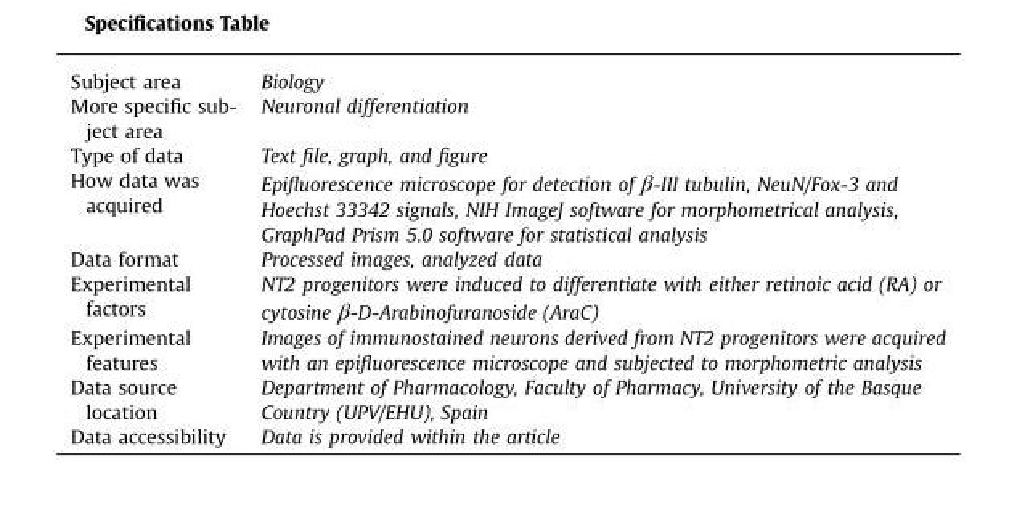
<table><tbody><tr><td>Subject area</td><td>Biology</td></tr><tr><td>More specific sub- ject area</td><td>Neuronal differentiation</td></tr><tr><td>Type of data</td><td>Text file, graph, and figure</td></tr><tr><td>How data was acquired</td><td>Epifluorescence microscope for detection of β-III tubulin, NeuN/Fox-3 and Hoechst 33342 signals, NIH ImageJ software for morphometrical analysis, GraphPad Prism 5.0 software for statistical analysis</td></tr><tr><td>Data format</td><td>Processed images, analyzed data</td></tr><tr><td>Experimental factors</td><td>NT2 progenitors were induced to differentiate with either retinoic acid (RA) or cytosine β-D-Arabinofuranoside (AraC)</td></tr><tr><td>Experimental features</td><td>Images of immunostained neurons derived from NT2 progenitors were acquired with an epifluorescence microscope and subjected to morphometric analysis</td></tr><tr><td>Data source location</td><td>Department of Pharmacology, Faculty of Pharmacy, University of the Basque Country (UPV/EHU), Spain</td></tr><tr><td>Data accessibility</td><td>Data is provided within the article</td></tr></tbody></table>